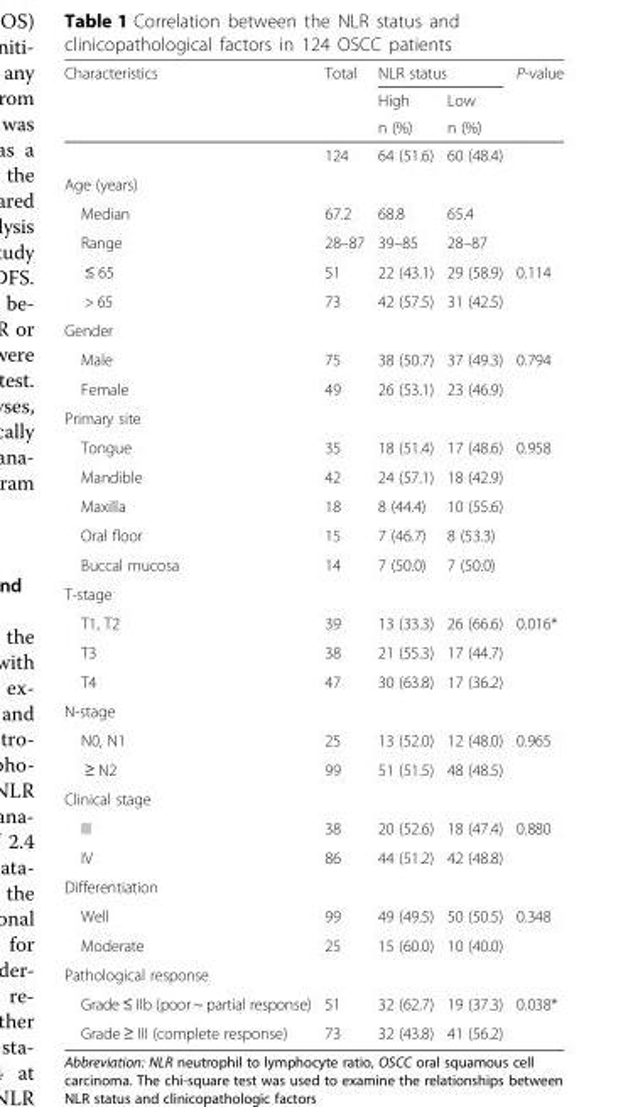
<table><thead><tr><td rowspan="3">Characteristics</td><td rowspan="3">Total</td><td colspan="2">NLR status</td><td rowspan="3">P-value</td></tr><tr><td rowspan="2">High n (%)</td><td rowspan="2">Low n (%)</td></tr><tr></tr></thead><tbody><tr><td></td><td>124</td><td>64 (51.6)</td><td>60 (48.4)</td><td></td></tr><tr><td colspan="5">Age (years)</td></tr><tr><td>Median</td><td>67.2</td><td>68.8</td><td>65.4</td><td></td></tr><tr><td>Range</td><td>28–87</td><td>39–85</td><td>28–87</td><td></td></tr><tr><td>≤ 65</td><td>51</td><td>22 (43.1)</td><td>29 (58.9)</td><td>0.114</td></tr><tr><td>&gt; 65</td><td>73</td><td>42 (57.5)</td><td>31 (42.5)</td><td></td></tr><tr><td colspan="5">Gender</td></tr><tr><td>Male</td><td>75</td><td>38 (50.7)</td><td>37 (49.3)</td><td>0.794</td></tr><tr><td>Female</td><td>49</td><td>26 (53.1)</td><td>23 (46.9)</td><td></td></tr><tr><td colspan="5">Primary site</td></tr><tr><td>Tongue</td><td>35</td><td>18 (51.4)</td><td>17 (48.6)</td><td>0.958</td></tr><tr><td>Mandible</td><td>42</td><td>24 (57.1)</td><td>18 (42.9)</td><td></td></tr><tr><td>Maxilla</td><td>18</td><td>8 (44.4)</td><td>10 (55.6)</td><td></td></tr><tr><td>Oral floor</td><td>15</td><td>7 (46.7)</td><td>8 (53.3)</td><td></td></tr><tr><td>Buccal mucosa</td><td>14</td><td>7 (50.0)</td><td>7 (50.0)</td><td></td></tr><tr><td colspan="5">T-stage</td></tr><tr><td>T1, T2</td><td>39</td><td>13 (33.3)</td><td>26 (66.6)</td><td>0.016*</td></tr><tr><td>T3</td><td>38</td><td>21 (55.3)</td><td>17 (44.7)</td><td></td></tr><tr><td>T4</td><td>47</td><td>30 (63.8)</td><td>17 (36.2)</td><td></td></tr><tr><td colspan="5">N-stage</td></tr><tr><td>N0, N1</td><td>25</td><td>13 (52.0)</td><td>12 (48.0)</td><td>0.965</td></tr><tr><td>≥ N2</td><td>99</td><td>51 (51.5)</td><td>48 (48.5)</td><td></td></tr><tr><td colspan="5">Clinical stage</td></tr><tr><td>III</td><td>38</td><td>20 (52.6)</td><td>18 (47.4)</td><td>0.880</td></tr><tr><td>IV</td><td>86</td><td>44 (51.2)</td><td>42 (48.8)</td><td></td></tr><tr><td colspan="5">Differentiation</td></tr><tr><td>Well</td><td>99</td><td>49 (49.5)</td><td>50 (50.5)</td><td>0.348</td></tr><tr><td>Moderate</td><td>25</td><td>15 (60.0)</td><td>10 (40.0)</td><td></td></tr><tr><td colspan="5">Pathological response</td></tr><tr><td>Grade ≤ IIb (poor ~ partial response)</td><td>51</td><td>32 (62.7)</td><td>19 (37.3)</td><td>0.038*</td></tr><tr><td>Grade ≥ III (complete response)</td><td>73</td><td>32 (43.8)</td><td>41 (56.2)</td><td></td></tr></tbody></table>